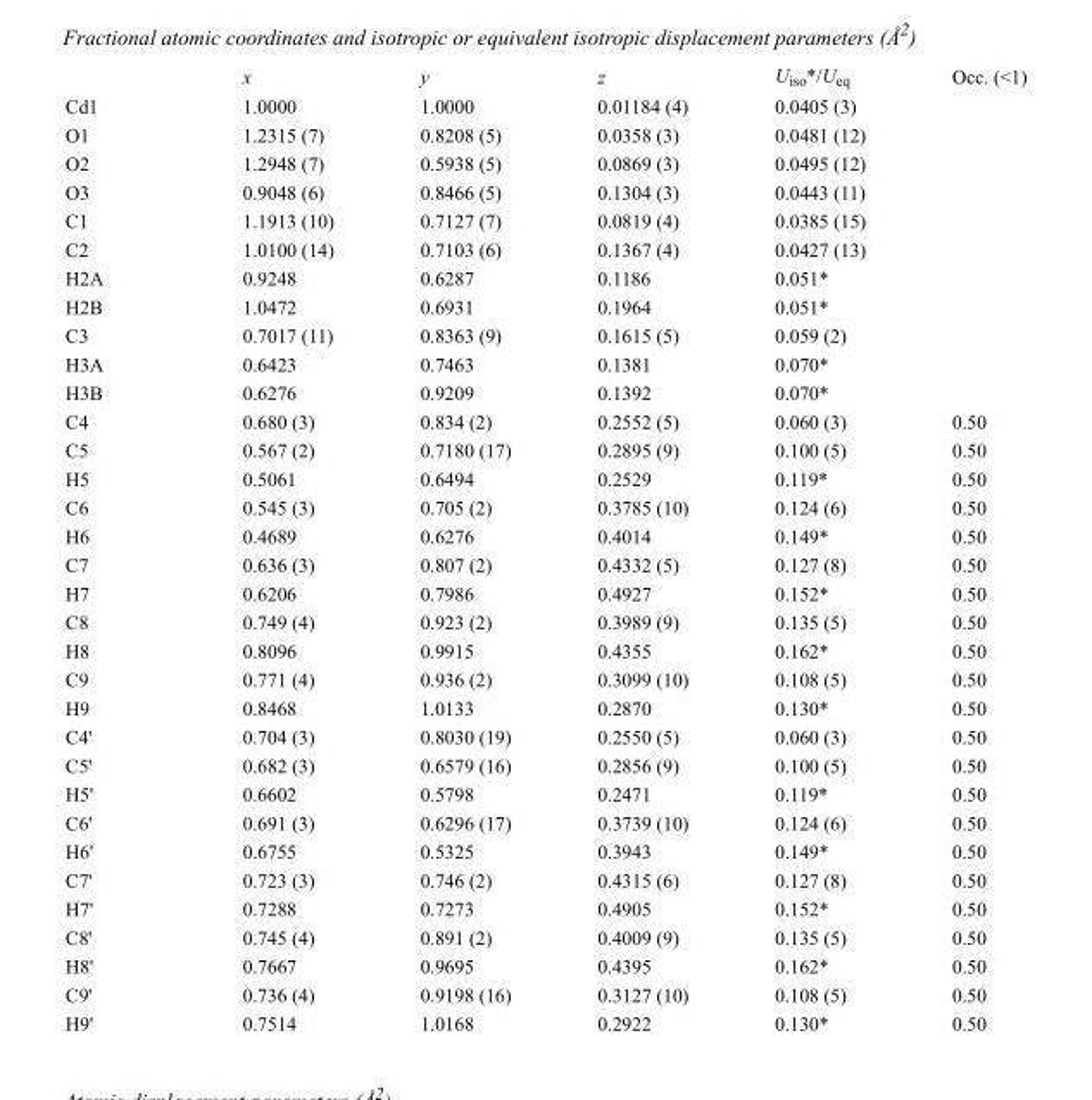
<table><thead><tr><td></td><td>x</td><td>y</td><td>z</td><td>U<sub>iso</sub>*/U<sub>eq</sub></td><td>Occ. (&lt;1)</td></tr></thead><tbody><tr><td>Cd1</td><td>1.0000</td><td>1.0000</td><td>0.01184 (4)</td><td>0.0405 (3)</td><td></td></tr><tr><td>O1</td><td>1.2315 (7)</td><td>0.8208 (5)</td><td>0.0358 (3)</td><td>0.0481 (12)</td><td></td></tr><tr><td>O2</td><td>1.2948 (7)</td><td>0.5938 (5)</td><td>0.0869 (3)</td><td>0.0495 (12)</td><td></td></tr><tr><td>O3</td><td>0.9048 (6)</td><td>0.8466 (5)</td><td>0.1304 (3)</td><td>0.0443 (11)</td><td></td></tr><tr><td>C1</td><td>1.1913 (10)</td><td>0.7127 (7)</td><td>0.0819 (4)</td><td>0.0385 (15)</td><td></td></tr><tr><td>C2</td><td>1.0100 (14)</td><td>0.7103 (6)</td><td>0.1367 (4)</td><td>0.0427 (13)</td><td></td></tr><tr><td>H2A</td><td>0.9248</td><td>0.6287</td><td>0.1186</td><td>0.051*</td><td></td></tr><tr><td>H2B</td><td>1.0472</td><td>0.6931</td><td>0.1964</td><td>0.051*</td><td></td></tr><tr><td>C3</td><td>0.7017 (11)</td><td>0.8363 (9)</td><td>0.1615 (5)</td><td>0.059 (2)</td><td></td></tr><tr><td>H3A</td><td>0.6423</td><td>0.7463</td><td>0.1381</td><td>0.070*</td><td></td></tr><tr><td>H3B</td><td>0.6276</td><td>0.9209</td><td>0.1392</td><td>0.070*</td><td></td></tr><tr><td>C4</td><td>0.680 (3)</td><td>0.834 (2)</td><td>0.2552 (5)</td><td>0.060 (3)</td><td>0.50</td></tr><tr><td>C5</td><td>0.567 (2)</td><td>0.7180 (17)</td><td>0.2895 (9)</td><td>0.100 (5)</td><td>0.50</td></tr><tr><td>H5</td><td>0.5061</td><td>0.6494</td><td>0.2529</td><td>0.119*</td><td>0.50</td></tr><tr><td>C6</td><td>0.545 (3)</td><td>0.705 (2)</td><td>0.3785 (10)</td><td>0.124 (6)</td><td>0.50</td></tr><tr><td>H6</td><td>0.4689</td><td>0.6276</td><td>0.4014</td><td>0.149*</td><td>0.50</td></tr><tr><td>C7</td><td>0.636 (3)</td><td>0.807 (2)</td><td>0.4332 (5)</td><td>0.127 (8)</td><td>0.50</td></tr><tr><td>H7</td><td>0.6206</td><td>0.7986</td><td>0.4927</td><td>0.152*</td><td>0.50</td></tr><tr><td>C8</td><td>0.749 (4)</td><td>0.923 (2)</td><td>0.3989 (9)</td><td>0.135 (5)</td><td>0.50</td></tr><tr><td>H8</td><td>0.8096</td><td>0.9915</td><td>0.4355</td><td>0.162*</td><td>0.50</td></tr><tr><td>C9</td><td>0.771 (4)</td><td>0.936 (2)</td><td>0.3099 (10)</td><td>0.108 (5)</td><td>0.50</td></tr><tr><td>H9</td><td>0.8468</td><td>1.0133</td><td>0.2870</td><td>0.130*</td><td>0.50</td></tr><tr><td>C4&#x27;</td><td>0.704 (3)</td><td>0.8030 (19)</td><td>0.2550 (5)</td><td>0.060 (3)</td><td>0.50</td></tr><tr><td>C5&#x27;</td><td>0.682 (3)</td><td>0.6579 (16)</td><td>0.2856 (9)</td><td>0.100 (5)</td><td>0.50</td></tr><tr><td>H5&#x27;</td><td>0.6602</td><td>0.5798</td><td>0.2471</td><td>0.119*</td><td>0.50</td></tr><tr><td>C6&#x27;</td><td>0.691 (3)</td><td>0.6296 (17)</td><td>0.3739 (10)</td><td>0.124 (6)</td><td>0.50</td></tr><tr><td>H6&#x27;</td><td>0.6755</td><td>0.5325</td><td>0.3943</td><td>0.149*</td><td>0.50</td></tr><tr><td>C7&#x27;</td><td>0.723 (3)</td><td>0.746 (2)</td><td>0.4315 (6)</td><td>0.127 (8)</td><td>0.50</td></tr><tr><td>H7&#x27;</td><td>0.7288</td><td>0.7273</td><td>0.4905</td><td>0.152*</td><td>0.50</td></tr><tr><td>C8&#x27;</td><td>0.745 (4)</td><td>0.891 (2)</td><td>0.4009 (9)</td><td>0.135 (5)</td><td>0.50</td></tr><tr><td>H8&#x27;</td><td>0.7667</td><td>0.9695</td><td>0.4395</td><td>0.162*</td><td>0.50</td></tr><tr><td>C9&#x27;</td><td>0.736 (4)</td><td>0.9198 (16)</td><td>0.3127 (10)</td><td>0.108 (5)</td><td>0.50</td></tr><tr><td>H9&#x27;</td><td>0.7514</td><td>1.0168</td><td>0.2922</td><td>0.130*</td><td>0.50</td></tr></tbody></table>